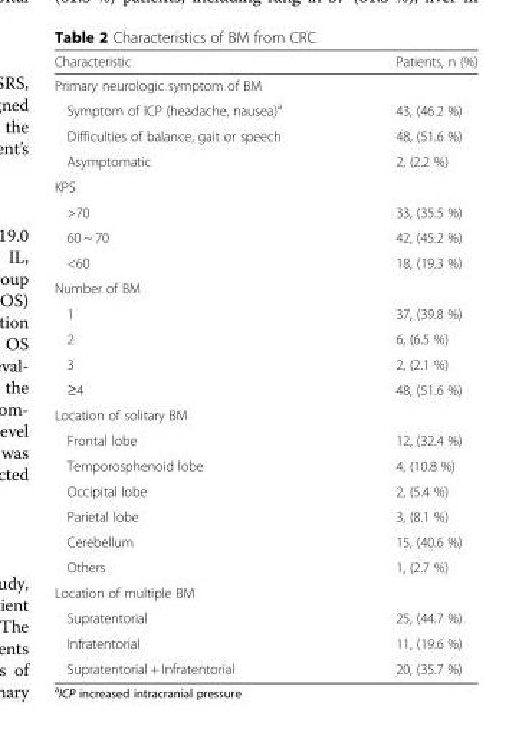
<table><thead><tr><td>Characteristic</td><td>Patients, n (%)</td></tr></thead><tbody><tr><td colspan="2">Primary neurologic symptom of BM</td></tr><tr><td>Symptom of ICP (headache, nausea)<sup>a</sup></td><td>43, (46.2 %)</td></tr><tr><td>Difficulties of balance, gait or speech</td><td>48, (51.6 %)</td></tr><tr><td>Asymptomatic</td><td>2, (2.2 %)</td></tr><tr><td colspan="2">KPS</td></tr><tr><td>&gt;70</td><td>33, (35.5 %)</td></tr><tr><td>60 ~ 70</td><td>42, (45.2 %)</td></tr><tr><td>&lt;60</td><td>18, (19.3 %)</td></tr><tr><td colspan="2">Number of BM</td></tr><tr><td>1</td><td>37, (39.8 %)</td></tr><tr><td>2</td><td>6, (6.5 %)</td></tr><tr><td>3</td><td>2, (2.1 %)</td></tr><tr><td>≥4</td><td>48, (51.6 %)</td></tr><tr><td colspan="2">Location of solitary BM</td></tr><tr><td>Frontal lobe</td><td>12, (32.4 %)</td></tr><tr><td>Temporosphenoid lobe</td><td>4, (10.8 %)</td></tr><tr><td>Occipital lobe</td><td>2, (5.4 %)</td></tr><tr><td>Parietal lobe</td><td>3, (8.1 %)</td></tr><tr><td>Cerebellum</td><td>15, (40.6 %)</td></tr><tr><td>Others</td><td>1, (2.7 %)</td></tr><tr><td colspan="2">Location of multiple BM</td></tr><tr><td>Supratentorial</td><td>25, (44.7 %)</td></tr><tr><td>Infratentorial</td><td>11, (19.6 %)</td></tr><tr><td>Supratentorial + Infratentorial</td><td>20, (35.7 %)</td></tr></tbody></table>